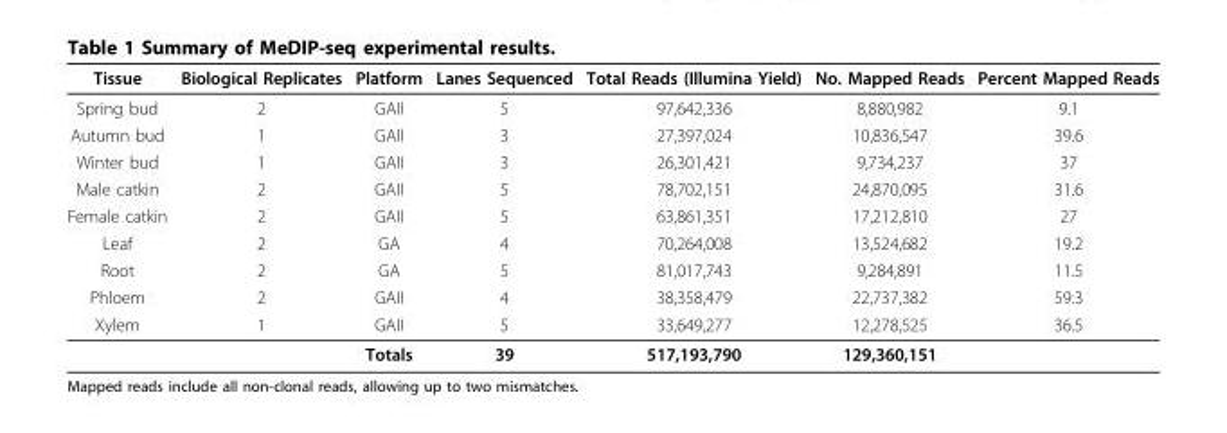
<table><thead><tr><td>Tissue</td><td>Biological Replicates</td><td>Platform</td><td>Lanes Sequenced</td><td>Total Reads (Illumina Yield)</td><td>No. Mapped Reads</td><td>Percent Mapped Reads</td></tr></thead><tbody><tr><td>Spring bud</td><td>2</td><td>GAII</td><td>5</td><td>97,642,336</td><td>8,880,982</td><td>9.1</td></tr><tr><td>Autumn bud</td><td>1</td><td>GAII</td><td>3</td><td>27,397,024</td><td>10,836,547</td><td>39.6</td></tr><tr><td>Winter bud</td><td>1</td><td>GAII</td><td>3</td><td>26,301,421</td><td>9,734,237</td><td>37</td></tr><tr><td>Male catkin</td><td>2</td><td>GAII</td><td>5</td><td>78,702,151</td><td>24,870,095</td><td>31.6</td></tr><tr><td>Female catkin</td><td>2</td><td>GAII</td><td>5</td><td>63,861,351</td><td>17,212,810</td><td>27</td></tr><tr><td>Leaf</td><td>2</td><td>GA</td><td>4</td><td>70,264,008</td><td>13,524,682</td><td>19.2</td></tr><tr><td>Root</td><td>2</td><td>GA</td><td>5</td><td>81,017,743</td><td>9,284,891</td><td>11.5</td></tr><tr><td>Phloem</td><td>2</td><td>GAII</td><td>4</td><td>38,358,479</td><td>22,737,382</td><td>59.3</td></tr><tr><td rowspan="2">Xylem</td><td>1</td><td>GAII</td><td>5</td><td>33,649,277</td><td>12,278,525</td><td>36.5</td></tr><tr><td></td><td>Totals</td><td>39</td><td>517,193,790</td><td>129,360,151</td><td></td></tr></tbody></table>